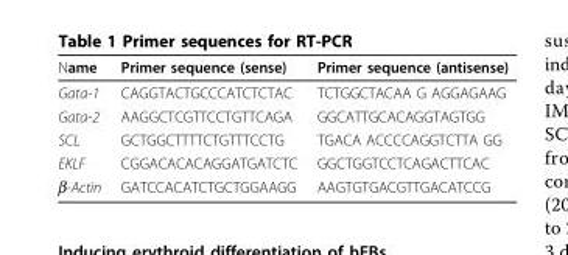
<table><thead><tr><td>Name</td><td>Primer sequence (sense)</td><td>Primer sequence (antisense)</td></tr></thead><tbody><tr><td>Gata-1</td><td>CAGGTACTGCCCATCTCTAC</td><td>TCTGGCTACAA G AGGAGAAG</td></tr><tr><td>Gata-2</td><td>AAGGCTCGTTCCTGTTCAGA</td><td>GGCATTGCACAGGTAGTGG</td></tr><tr><td>SCL</td><td>GCTGGCTTTTCTGTTTCCTG</td><td>TGACA ACCCCAGGTCTTA GG</td></tr><tr><td>EKLF</td><td>CGGACACACAGGATGATCTC</td><td>GGCTGGTCCTCAGACTTCAC</td></tr><tr><td>β-Actin</td><td>GATCCACATCTGCTGGAAGG</td><td>AAGTGTGACGTTGACATCCG</td></tr></tbody></table>